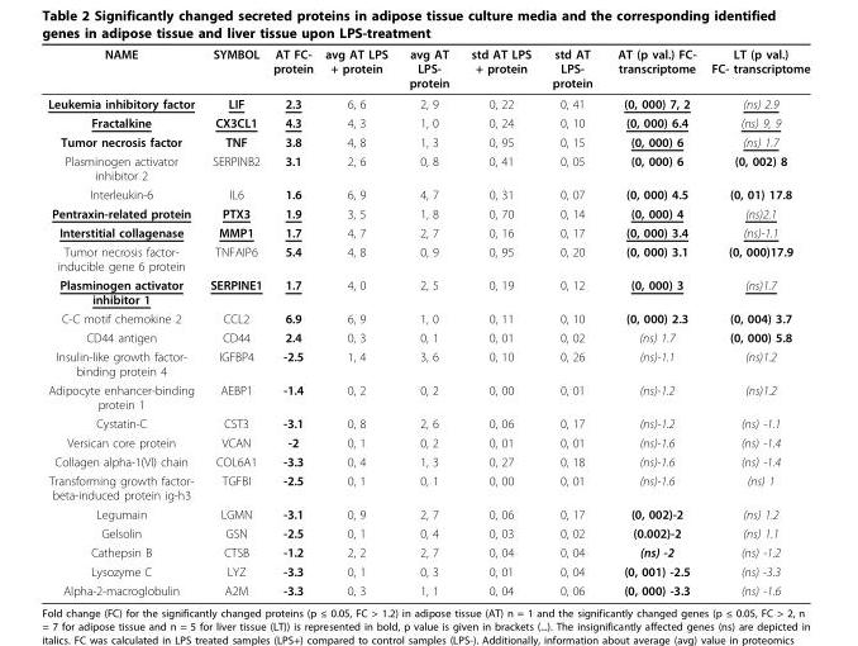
<table><thead><tr><td>NAME</td><td>SYMBOL</td><td>AT FC- protein</td><td>avg AT LPS + protein</td><td>avg AT LPS- protein</td><td>std AT LPS + protein</td><td>std AT LPS- protein</td><td>AT (p val.) FC- transcriptome</td><td>LT (p val.) FC- transcriptome</td></tr></thead><tbody><tr><td>Leukemia inhibitory factor</td><td>LIF</td><td>2.3</td><td>6, 6</td><td>2, 9</td><td>0, 22</td><td>0, 41</td><td>(0, 000) 7, 2</td><td>(ns) 2.9</td></tr><tr><td>Fractalkine</td><td>CX3CL1</td><td>4.3</td><td>4, 3</td><td>1, 0</td><td>0, 24</td><td>0, 10</td><td>(0, 000) 6.4</td><td>(ns) 9, 9</td></tr><tr><td>Tumor necrosis factor</td><td>TNF</td><td>3.8</td><td>4, 8</td><td>1, 3</td><td>0, 95</td><td>0, 15</td><td>(0, 000) 6</td><td>(ns) 1.7</td></tr><tr><td>Plasminogen activator inhibitor 2</td><td>SERPINB2</td><td>3.1</td><td>2, 6</td><td>0, 8</td><td>0, 41</td><td>0, 05</td><td>(0, 000) 6</td><td>(0, 002) 8</td></tr><tr><td>Interleukin-6</td><td>IL6</td><td>1.6</td><td>6, 9</td><td>4, 7</td><td>0, 31</td><td>0, 07</td><td>(0, 000) 4.5</td><td>(0, 01) 17.8</td></tr><tr><td>Pentraxin-related protein</td><td>PTX3</td><td>1.9</td><td>3, 5</td><td>1, 8</td><td>0, 70</td><td>0, 14</td><td>(0, 000) 4</td><td>(ns)2.1</td></tr><tr><td>Interstitial collagenase</td><td>MMP1</td><td>1.7</td><td>4, 7</td><td>2, 7</td><td>0, 16</td><td>0, 17</td><td>(0, 000) 3.4</td><td>(ns)-1.1</td></tr><tr><td>Tumor necrosis factor- inducible gene 6 protein</td><td>TNFAIP6</td><td>5.4</td><td>4, 8</td><td>0, 9</td><td>0, 95</td><td>0, 20</td><td>(0, 000) 3.1</td><td>(0, 000)17.9</td></tr><tr><td>Plasminogen activator inhibitor 1</td><td>SERPINE1</td><td>1.7</td><td>4, 0</td><td>2, 5</td><td>0, 19</td><td>0, 12</td><td>(0, 000) 3</td><td>(ns)1.7</td></tr><tr><td>C-C motif chemokine 2</td><td>CCL2</td><td>6.9</td><td>6, 9</td><td>1, 0</td><td>0, 11</td><td>0, 10</td><td>(0, 000) 2.3</td><td>(0, 004) 3.7</td></tr><tr><td>CD44 antigen</td><td>CD44</td><td>2.4</td><td>0, 3</td><td>0, 1</td><td>0, 01</td><td>0, 02</td><td>(ns) 1.7</td><td>(0, 000) 5.8</td></tr><tr><td>Insulin-like growth factor- binding protein 4</td><td>IGFBP4</td><td>-2.5</td><td>1, 4</td><td>3, 6</td><td>0, 10</td><td>0, 26</td><td>(ns)-1.1</td><td>(ns)1.2</td></tr><tr><td>Adipocyte enhancer-binding protein 1</td><td>AEBP1</td><td>-1.4</td><td>0, 2</td><td>0, 2</td><td>0, 00</td><td>0, 01</td><td>(ns)-1.2</td><td>(ns)1.2</td></tr><tr><td>Cystatin-C</td><td>CST3</td><td>-3.1</td><td>0, 8</td><td>2, 6</td><td>0, 06</td><td>0, 17</td><td>(ns)-1.2</td><td>(ns) -1.1</td></tr><tr><td>Versican core protein</td><td>VCAN</td><td>-2</td><td>0, 1</td><td>0, 2</td><td>0, 01</td><td>0, 01</td><td>(ns)-1.6</td><td>(ns) -1.4</td></tr><tr><td>Collagen alpha-1(VI) chain</td><td>COL6A1</td><td>-3.3</td><td>0, 4</td><td>1, 3</td><td>0, 27</td><td>0, 18</td><td>(ns)-1.6</td><td>(ns) -1.4</td></tr><tr><td>Transforming growth factor- beta-induced protein ig-h3</td><td>TGFBI</td><td>-2.5</td><td>0, 1</td><td>0, 1</td><td>0, 00</td><td>0, 01</td><td>(ns)-1.6</td><td>(ns) 1</td></tr><tr><td>Legumain</td><td>LGMN</td><td>-3.1</td><td>0, 9</td><td>2, 7</td><td>0, 06</td><td>0, 17</td><td>(0, 002)-2</td><td>(ns) 1.2</td></tr><tr><td>Gelsolin</td><td>GSN</td><td>-2.5</td><td>0, 1</td><td>0, 4</td><td>0, 03</td><td>0, 02</td><td>(0.002)-2</td><td>(ns) 1.1</td></tr><tr><td>Cathepsin B</td><td>CTSB</td><td>-1.2</td><td>2, 2</td><td>2, 7</td><td>0, 04</td><td>0, 04</td><td>(ns) -2</td><td>(ns) -1.2</td></tr><tr><td>Lysozyme C</td><td>LYZ</td><td>-3.3</td><td>0, 1</td><td>0, 3</td><td>0, 01</td><td>0, 04</td><td>(0, 001) -2.5</td><td>(ns) -3.3</td></tr><tr><td>Alpha-2-macroglobulin</td><td>A2M</td><td>-3.3</td><td>0, 3</td><td>1, 1</td><td>0, 04</td><td>0, 06</td><td>(0, 000) -3.3</td><td>(ns) -1.6</td></tr></tbody></table>